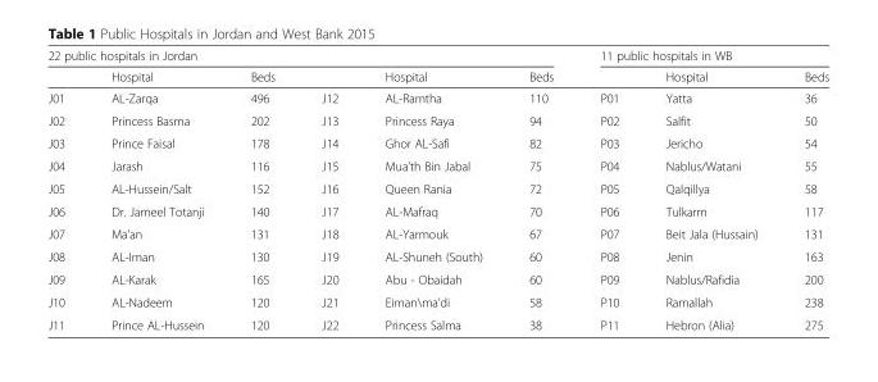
<table><thead><tr><td colspan="6">22 public hospitals in Jordan</td><td colspan="3">11 public hospitals in WB</td></tr><tr><td></td><td>Hospital</td><td>Beds</td><td></td><td>Hospital</td><td>Beds</td><td></td><td>Hospital</td><td>Beds</td></tr></thead><tbody><tr><td>J01</td><td>AL-Zarqa</td><td>496</td><td>J12</td><td>AL-Ramtha</td><td>110</td><td>P01</td><td>Yatta</td><td>36</td></tr><tr><td>J02</td><td>Princess Basma</td><td>202</td><td>J13</td><td>Princess Raya</td><td>94</td><td>P02</td><td>Salfit</td><td>50</td></tr><tr><td>J03</td><td>Prince Faisal</td><td>178</td><td>J14</td><td>Ghor AL-Safi</td><td>82</td><td>P03</td><td>Jericho</td><td>54</td></tr><tr><td>J04</td><td>Jarash</td><td>116</td><td>J15</td><td>Mua’th Bin Jabal</td><td>75</td><td>P04</td><td>Nablus/Watani</td><td>55</td></tr><tr><td>J05</td><td>AL-Hussein/Salt</td><td>152</td><td>J16</td><td>Queen Rania</td><td>72</td><td>P05</td><td>Qalqillya</td><td>58</td></tr><tr><td>J06</td><td>Dr. Jameel Totanji</td><td>140</td><td>J17</td><td>AL-Mafraq</td><td>70</td><td>P06</td><td>Tulkarm</td><td>117</td></tr><tr><td>J07</td><td>Ma’an</td><td>131</td><td>J18</td><td>AL-Yarmouk</td><td>67</td><td>P07</td><td>Beit Jala (Hussain)</td><td>131</td></tr><tr><td>J08</td><td>AL-Iman</td><td>130</td><td>J19</td><td>AL-Shuneh (South)</td><td>60</td><td>P08</td><td>Jenin</td><td>163</td></tr><tr><td>J09</td><td>AL-Karak</td><td>165</td><td>J20</td><td>Abu - Obaidah</td><td>60</td><td>P09</td><td>Nablus/Rafidia</td><td>200</td></tr><tr><td>J10</td><td>AL-Nadeem</td><td>120</td><td>J21</td><td>Eiman\ma’di</td><td>58</td><td>P10</td><td>Ramallah</td><td>238</td></tr><tr><td>J11</td><td>Prince AL-Hussein</td><td>120</td><td>J22</td><td>Princess Salma</td><td>38</td><td>P11</td><td>Hebron (Alia)</td><td>275</td></tr></tbody></table>